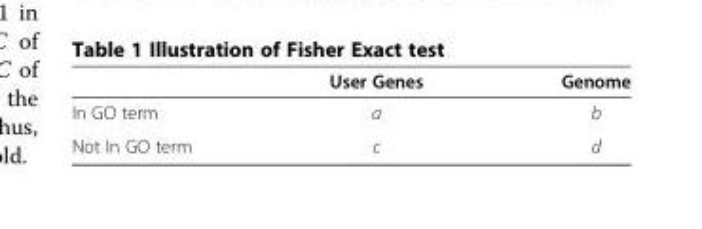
<table><thead><tr><td></td><td>User Genes</td><td>Genome</td></tr></thead><tbody><tr><td>In GO term</td><td>a</td><td>b</td></tr><tr><td>Not In GO term</td><td>c</td><td>d</td></tr></tbody></table>